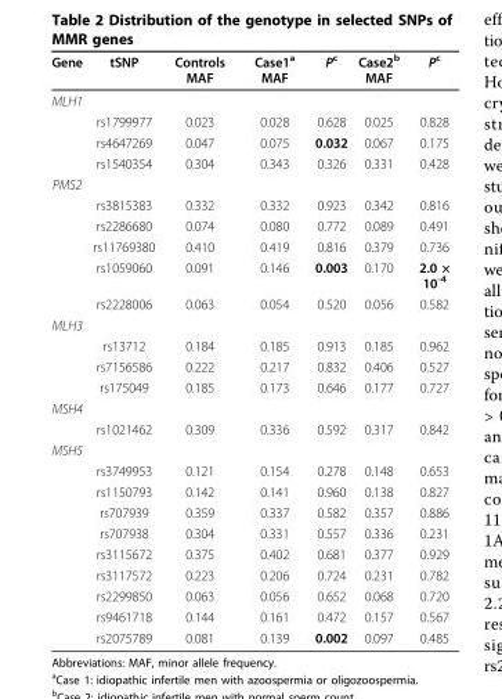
<table><thead><tr><td>Gene</td><td>tSNP</td><td>Controls MAF</td><td>Case1<sup>a</sup> MAF</td><td>P<sup>c</sup></td><td>Case2<sup>b</sup> MAF</td><td>P<sup>c</sup></td></tr></thead><tbody><tr><td colspan="7">MLH1</td></tr><tr><td></td><td>rs1799977</td><td>0.023</td><td>0.028</td><td>0.628</td><td>0.025</td><td>0.828</td></tr><tr><td></td><td>rs4647269</td><td>0.047</td><td>0.075</td><td>0.032</td><td>0.067</td><td>0.175</td></tr><tr><td></td><td>rs1540354</td><td>0.304</td><td>0.343</td><td>0.326</td><td>0.331</td><td>0.428</td></tr><tr><td colspan="7">PMS2</td></tr><tr><td></td><td>rs3815383</td><td>0.332</td><td>0.332</td><td>0.923</td><td>0.342</td><td>0.816</td></tr><tr><td></td><td>rs2286680</td><td>0.074</td><td>0.080</td><td>0.772</td><td>0.089</td><td>0.491</td></tr><tr><td></td><td>rs11769380</td><td>0.410</td><td>0.419</td><td>0.816</td><td>0.379</td><td>0.736</td></tr><tr><td></td><td>rs1059060</td><td>0.091</td><td>0.146</td><td>0.003</td><td>0.170</td><td>2.0 × 10<sup>-4</sup></td></tr><tr><td></td><td>rs2228006</td><td>0.063</td><td>0.054</td><td>0.520</td><td>0.056</td><td>0.582</td></tr><tr><td colspan="7">MLH3</td></tr><tr><td></td><td>rs13712</td><td>0.184</td><td>0.185</td><td>0.913</td><td>0.185</td><td>0.962</td></tr><tr><td></td><td>rs7156586</td><td>0.222</td><td>0.217</td><td>0.832</td><td>0.406</td><td>0.527</td></tr><tr><td></td><td>rs175049</td><td>0.185</td><td>0.173</td><td>0.646</td><td>0.177</td><td>0.727</td></tr><tr><td colspan="7">MSH4</td></tr><tr><td></td><td>rs1021462</td><td>0.309</td><td>0.336</td><td>0.592</td><td>0.317</td><td>0.842</td></tr><tr><td colspan="7">MSH5</td></tr><tr><td></td><td>rs3749953</td><td>0.121</td><td>0.154</td><td>0.278</td><td>0.148</td><td>0.653</td></tr><tr><td></td><td>rs1150793</td><td>0.142</td><td>0.141</td><td>0.960</td><td>0.138</td><td>0.827</td></tr><tr><td></td><td>rs707939</td><td>0.359</td><td>0.337</td><td>0.582</td><td>0.357</td><td>0.886</td></tr><tr><td></td><td>rs707938</td><td>0.304</td><td>0.331</td><td>0.557</td><td>0.336</td><td>0.231</td></tr><tr><td></td><td>rs3115672</td><td>0.375</td><td>0.402</td><td>0.681</td><td>0.377</td><td>0.929</td></tr><tr><td></td><td>rs3117572</td><td>0.223</td><td>0.206</td><td>0.724</td><td>0.231</td><td>0.782</td></tr><tr><td></td><td>rs2299850</td><td>0.063</td><td>0.056</td><td>0.652</td><td>0.068</td><td>0.720</td></tr><tr><td></td><td>rs9461718</td><td>0.144</td><td>0.161</td><td>0.472</td><td>0.157</td><td>0.567</td></tr><tr><td></td><td>rs2075789</td><td>0.081</td><td>0.139</td><td>0.002</td><td>0.097</td><td>0.485</td></tr></tbody></table>